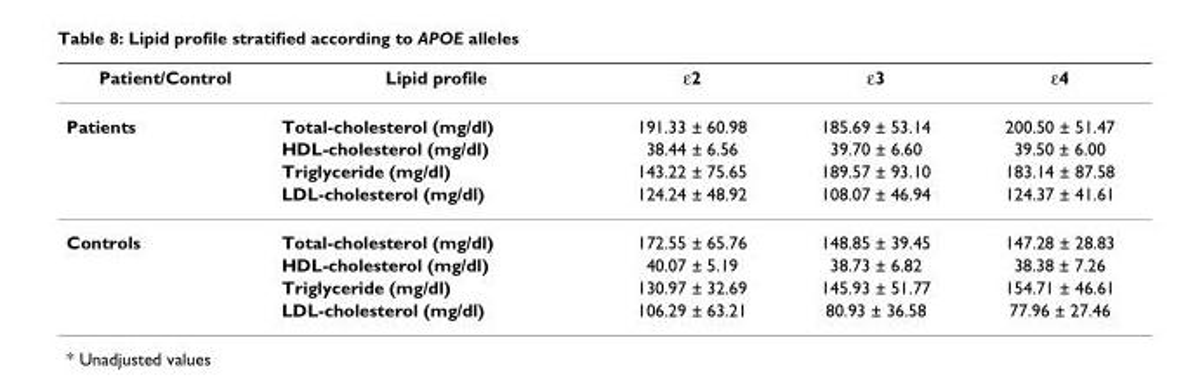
<table><thead><tr><td>Patient/Control</td><td>Lipid profile</td><td>ε2</td><td>ε3</td><td>ε4</td></tr></thead><tbody><tr><td rowspan="4">Patients</td><td>Total-cholesterol (mg/dl)</td><td>191.33 ± 60.98</td><td>185.69 ± 53.14</td><td>200.50 ± 51.47</td></tr><tr><td>HDL-cholesterol (mg/dl)</td><td>38.44 ± 6.56</td><td>39.70 ± 6.60</td><td>39.50 ± 6.00</td></tr><tr><td>Triglyceride (mg/dl)</td><td>143.22 ± 75.65</td><td>189.57 ± 93.10</td><td>183.14 ± 87.58</td></tr><tr><td>LDL-cholesterol (mg/dl)</td><td>124.24 ± 48.92</td><td>108.07 ± 46.94</td><td>124.37 ± 41.61</td></tr><tr><td rowspan="4">Controls</td><td>Total-cholesterol (mg/dl)</td><td>172.55 ± 65.76</td><td>148.85 ± 39.45</td><td>147.28 ± 28.83</td></tr><tr><td>HDL-cholesterol (mg/dl)</td><td>40.07 ± 5.19</td><td>38.73 ± 6.82</td><td>38.38 ± 7.26</td></tr><tr><td>Triglyceride (mg/dl)</td><td>130.97 ± 32.69</td><td>145.93 ± 51.77</td><td>154.71 ± 46.61</td></tr><tr><td>LDL-cholesterol (mg/dl)</td><td>106.29 ± 63.21</td><td>80.93 ± 36.58</td><td>77.96 ± 27.46</td></tr></tbody></table>